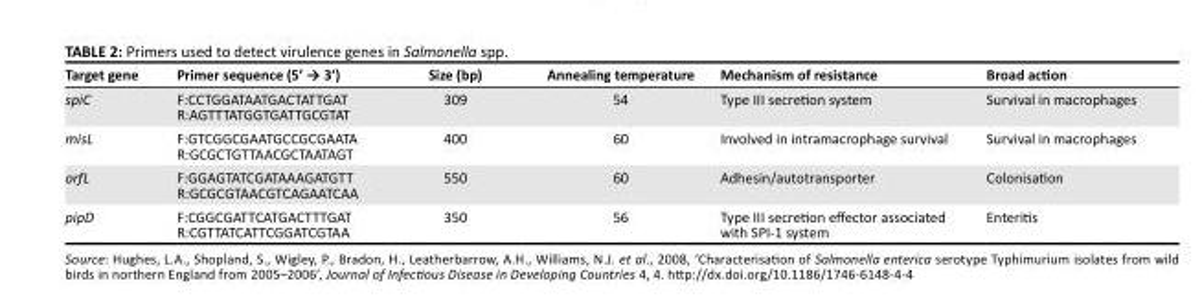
<table><thead><tr><td>Target gene</td><td>Primer sequence (5’ → 3’)</td><td>Size (bp)</td><td>Annealing temperature</td><td>Mechanism of resistance</td><td>Broad action</td></tr></thead><tbody><tr><td>spiC</td><td>F:CCTGGATAATGACTATTGAT R:AGTTTATGGTGATTGCGTAT</td><td>309</td><td>54</td><td>Type III secretion system</td><td>Survival in macrophages</td></tr><tr><td>misL</td><td>F:GTCGGCGAATGCCGCGAATA R:GCGCTGTTAACGCTAATAGT</td><td>400</td><td>60</td><td>Involved in intramacrophage survival</td><td>Survival in macrophages</td></tr><tr><td>orfL</td><td>F:GGAGTATCGATAAAGATGTT R:GCGCGTAACGTCAGAATCAA</td><td>550</td><td>60</td><td>Adhesin/autotransporter</td><td>Colonisation</td></tr><tr><td>pipD</td><td>F:CGGCGATTCATGACTTTGAT R:CGTTATCATTCGGATCGTAA</td><td>350</td><td>56</td><td>Type III secretion effector associated with SPI-1 system</td><td>Enteritis</td></tr></tbody></table>